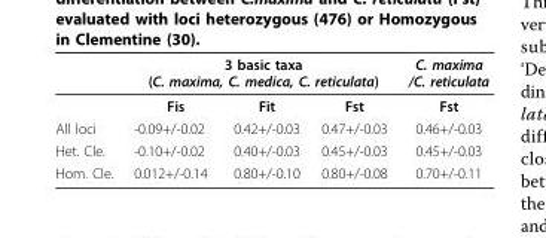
<table><thead><tr><td rowspan="2"></td><td colspan="3">3 basic taxa (C. maxima, C. medica, C. reticulata)</td><td rowspan="2">C. maxima /C. reticulata Fst</td></tr><tr><td>Fis</td><td>Fit</td><td>Fst</td></tr></thead><tbody><tr><td>All loci</td><td>-0.09+/-0.02</td><td>0.42+/-0.03</td><td>0.47+/-0.03</td><td>0.46+/-0.03</td></tr><tr><td>Het. Cle.</td><td>-0.10+/-0.02</td><td>0.40+/-0.03</td><td>0.45+/-0.03</td><td>0.45+/-0.03</td></tr><tr><td>Hom. Cle.</td><td>0.012+/-0.14</td><td>0.80+/-0.10</td><td>0.80+/-0.08</td><td>0.70+/-0.11</td></tr></tbody></table>